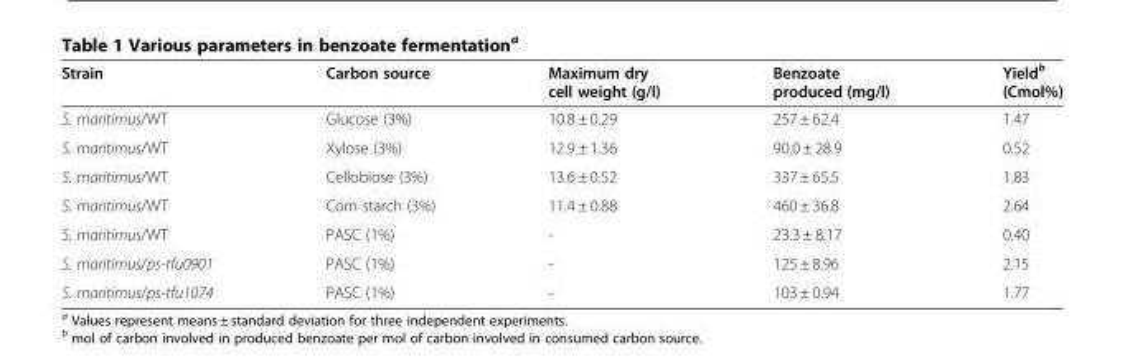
<table><thead><tr><td>Strain</td><td>Carbon source</td><td>Maximum dry cell weight (g/l)</td><td>Benzoate produced (mg/l)</td><td>Yield<sup>b</sup> (Cmol%)</td></tr></thead><tbody><tr><td>S. maritimus/WT</td><td>Glucose (3%)</td><td>10.8 ± 0.29</td><td>257 ± 62.4</td><td>1.47</td></tr><tr><td>S. maritimus/WT</td><td>Xylose (3%)</td><td>12.9 ± 1.36</td><td>90.0 ± 28.9</td><td>0.52</td></tr><tr><td>S. maritimus/WT</td><td>Cellobiose (3%)</td><td>13.6 ± 0.52</td><td>337 ± 65.5</td><td>1.83</td></tr><tr><td>S. maritimus/WT</td><td>Corn starch (3%)</td><td>11.4 ± 0.88</td><td>460 ± 36.8</td><td>2.64</td></tr><tr><td>S. maritimus/WT</td><td>PASC (1%)</td><td>-</td><td>23.3 ± 8.17</td><td>0.40</td></tr><tr><td>S. maritimus/ps-tfu0901</td><td>PASC (1%)</td><td>-</td><td>125 ± 8.96</td><td>2.15</td></tr><tr><td>S. maritimus/ps-tfu1074</td><td>PASC (1%)</td><td>-</td><td>103 ± 0.94</td><td>1.77</td></tr></tbody></table>